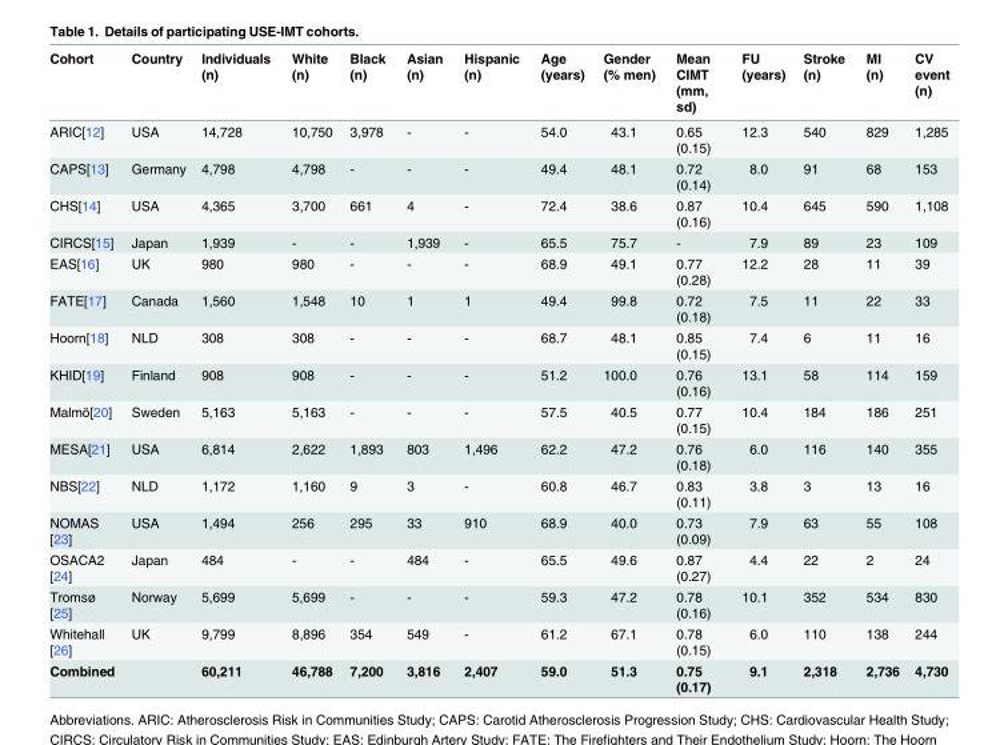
<table><thead><tr><td>Cohort</td><td>Country</td><td>Individuals (n)</td><td>White (n)</td><td>Black (n)</td><td>Asian (n)</td><td>Hispanic (n)</td><td>Age (years)</td><td>Gender (% men)</td><td>Mean CIMT (mm, sd)</td><td>FU (years)</td><td>Stroke (n)</td><td>MI (n)</td><td>CV event (n)</td></tr></thead><tbody><tr><td>ARIC[12]</td><td>USA</td><td>14,728</td><td>10,750</td><td>3,978</td><td>-</td><td>-</td><td>54.0</td><td>43.1</td><td>0.65 (0.15)</td><td>12.3</td><td>540</td><td>829</td><td>1,285</td></tr><tr><td>CAPS[13]</td><td>Germany</td><td>4,798</td><td>4,798</td><td>-</td><td>-</td><td>-</td><td>49.4</td><td>48.1</td><td>0.72 (0.14)</td><td>8.0</td><td>91</td><td>68</td><td>153</td></tr><tr><td>CHS[14]</td><td>USA</td><td>4,365</td><td>3,700</td><td>661</td><td>4</td><td>-</td><td>72.4</td><td>38.6</td><td>0.87 (0.16)</td><td>10.4</td><td>645</td><td>590</td><td>1,108</td></tr><tr><td>CIRCS[15]</td><td>Japan</td><td>1,939</td><td>-</td><td>-</td><td>1,939</td><td>-</td><td>65.5</td><td>75.7</td><td>-</td><td>7.9</td><td>89</td><td>23</td><td>109</td></tr><tr><td>EAS[16]</td><td>UK</td><td>980</td><td>980</td><td>-</td><td>-</td><td>-</td><td>68.9</td><td>49.1</td><td>0.77 (0.28)</td><td>12.2</td><td>28</td><td>11</td><td>39</td></tr><tr><td>FATE[17]</td><td>Canada</td><td>1,560</td><td>1,548</td><td>10</td><td>1</td><td>1</td><td>49.4</td><td>99.8</td><td>0.72 (0.18)</td><td>7.5</td><td>11</td><td>22</td><td>33</td></tr><tr><td>Hoorn[18]</td><td>NLD</td><td>308</td><td>308</td><td>-</td><td>-</td><td>-</td><td>68.7</td><td>48.1</td><td>0.85 (0.15)</td><td>7.4</td><td>6</td><td>11</td><td>16</td></tr><tr><td>KHID[19]</td><td>Finland</td><td>908</td><td>908</td><td>-</td><td>-</td><td>-</td><td>51.2</td><td>100.0</td><td>0.76 (0.16)</td><td>13.1</td><td>58</td><td>114</td><td>159</td></tr><tr><td>Malmö[20]</td><td>Sweden</td><td>5,163</td><td>5,163</td><td>-</td><td>-</td><td>-</td><td>57.5</td><td>40.5</td><td>0.77 (0.15)</td><td>10.4</td><td>184</td><td>186</td><td>251</td></tr><tr><td>MESA[21]</td><td>USA</td><td>6,814</td><td>2,622</td><td>1,893</td><td>803</td><td>1,496</td><td>62.2</td><td>47.2</td><td>0.76 (0.18)</td><td>6.0</td><td>116</td><td>140</td><td>355</td></tr><tr><td>NBS[22]</td><td>NLD</td><td>1,172</td><td>1,160</td><td>9</td><td>3</td><td>-</td><td>60.8</td><td>46.7</td><td>0.83 (0.11)</td><td>3.8</td><td>3</td><td>13</td><td>16</td></tr><tr><td>NOMAS [23]</td><td>USA</td><td>1,494</td><td>256</td><td>295</td><td>33</td><td>910</td><td>68.9</td><td>40.0</td><td>0.73 (0.09)</td><td>7.9</td><td>63</td><td>55</td><td>108</td></tr><tr><td>OSACA2 [24]</td><td>Japan</td><td>484</td><td>-</td><td>-</td><td>484</td><td>-</td><td>65.5</td><td>49.6</td><td>0.87 (0.27)</td><td>4.4</td><td>22</td><td>2</td><td>24</td></tr><tr><td>Tromsø [25]</td><td>Norway</td><td>5,699</td><td>5,699</td><td>-</td><td>-</td><td>-</td><td>59.3</td><td>47.2</td><td>0.78 (0.16)</td><td>10.1</td><td>352</td><td>534</td><td>830</td></tr><tr><td>Whitehall [26]</td><td>UK</td><td>9,799</td><td>8,896</td><td>354</td><td>549</td><td>-</td><td>61.2</td><td>67.1</td><td>0.78 (0.15)</td><td>6.0</td><td>110</td><td>138</td><td>244</td></tr><tr><td>Combined</td><td></td><td>60,211</td><td>46,788</td><td>7,200</td><td>3,816</td><td>2,407</td><td>59.0</td><td>51.3</td><td>0.75 (0.17)</td><td>9.1</td><td>2,318</td><td>2,736</td><td>4,730</td></tr></tbody></table>